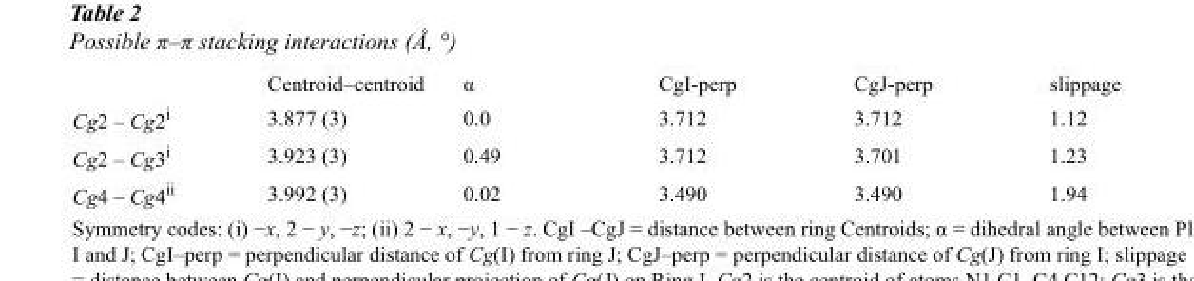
<table><thead><tr><td></td><td>Centroid–centroid</td><td>α</td><td>CgI-perp</td><td>CgJ-perp</td><td>slippage</td></tr></thead><tbody><tr><td>Cg2 – Cg2<sup>i</sup></td><td>3.877 (3)</td><td>0.0</td><td>3.712</td><td>3.712</td><td>1.12</td></tr><tr><td>Cg2 – Cg3<sup>i</sup></td><td>3.923 (3)</td><td>0.49</td><td>3.712</td><td>3.701</td><td>1.23</td></tr><tr><td>Cg4 – Cg4<sup>ii</sup></td><td>3.992 (3)</td><td>0.02</td><td>3.490</td><td>3.490</td><td>1.94</td></tr></tbody></table>